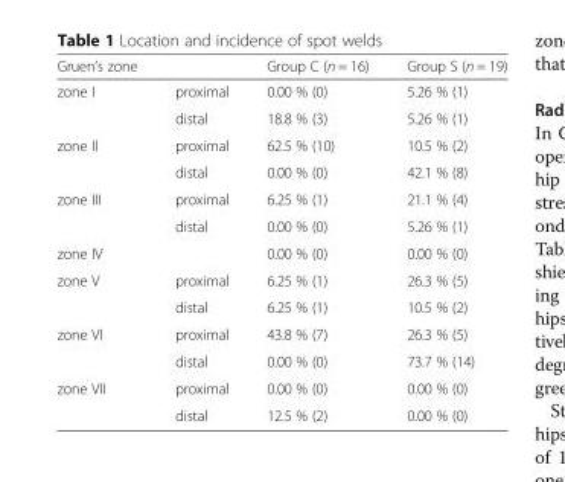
<table><thead><tr><td>Gruen’s zone</td><td></td><td>Group C (n = 16)</td><td>Group S (n = 19)</td></tr></thead><tbody><tr><td rowspan="2">zone I</td><td>proximal</td><td>0.00 % (0)</td><td>5.26 % (1)</td></tr><tr><td>distal</td><td>18.8 % (3)</td><td>5.26 % (1)</td></tr><tr><td rowspan="2">zone II</td><td>proximal</td><td>62.5 % (10)</td><td>10.5 % (2)</td></tr><tr><td>distal</td><td>0.00 % (0)</td><td>42.1 % (8)</td></tr><tr><td rowspan="2">zone III</td><td>proximal</td><td>6.25 % (1)</td><td>21.1 % (4)</td></tr><tr><td>distal</td><td>0.00 % (0)</td><td>5.26 % (1)</td></tr><tr><td>zone IV</td><td></td><td>0.00 % (0)</td><td>0.00 % (0)</td></tr><tr><td rowspan="2">zone V</td><td>proximal</td><td>6.25 % (1)</td><td>26.3 % (5)</td></tr><tr><td>distal</td><td>6.25 % (1)</td><td>10.5 % (2)</td></tr><tr><td rowspan="2">zone VI</td><td>proximal</td><td>43.8 % (7)</td><td>26.3 % (5)</td></tr><tr><td>distal</td><td>0.00 % (0)</td><td>73.7 % (14)</td></tr><tr><td rowspan="2">zone VII</td><td>proximal</td><td>0.00 % (0)</td><td>0.00 % (0)</td></tr><tr><td>distal</td><td>12.5 % (2)</td><td>0.00 % (0)</td></tr></tbody></table>